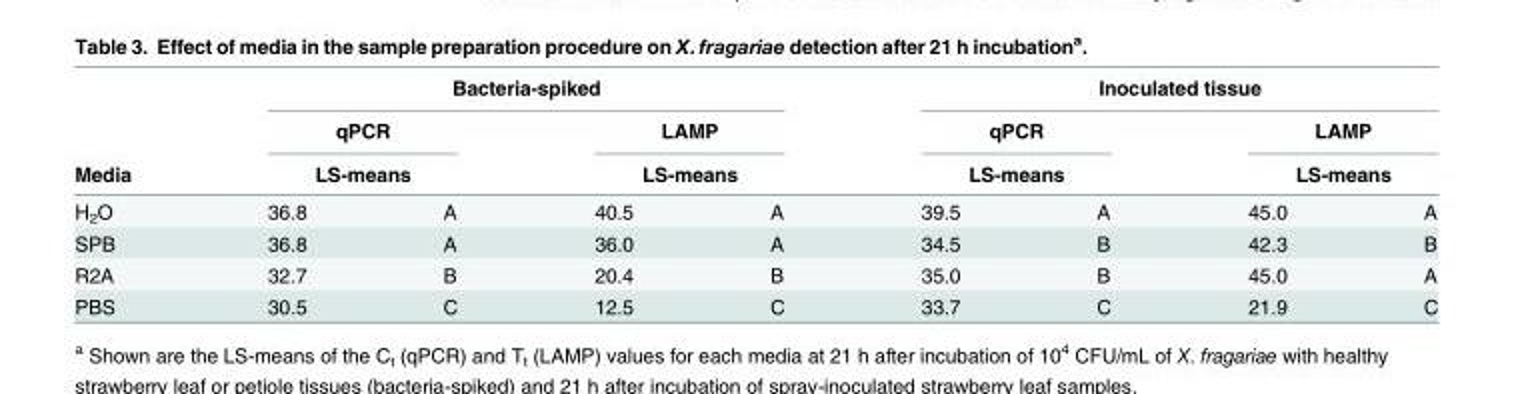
<table><thead><tr><td rowspan="4">Media H<sub>2</sub>O</td><td colspan="4">Bacteria-spiked</td><td colspan="4">Inoculated tissue</td></tr><tr><td rowspan="2" colspan="2">qPCR LS-means</td><td rowspan="2" colspan="2">LAMP LS-means</td><td rowspan="2" colspan="2">qPCR LS-means</td><td rowspan="2" colspan="2">LAMP LS-means</td></tr><tr></tr><tr><td>36.8</td><td>A</td><td>40.5</td><td>A</td><td>39.5</td><td>A</td><td>45.0</td><td>A</td></tr></thead><tbody><tr><td>SPB</td><td>36.8</td><td>A</td><td>36.0</td><td>A</td><td>34.5</td><td>B</td><td>42.3</td><td>B</td></tr><tr><td>R2A</td><td>32.7</td><td>B</td><td>20.4</td><td>B</td><td>35.0</td><td>B</td><td>45.0</td><td>A</td></tr><tr><td>PBS</td><td>30.5</td><td>C</td><td>12.5</td><td>C</td><td>33.7</td><td>C</td><td>21.9</td><td>C</td></tr></tbody></table>